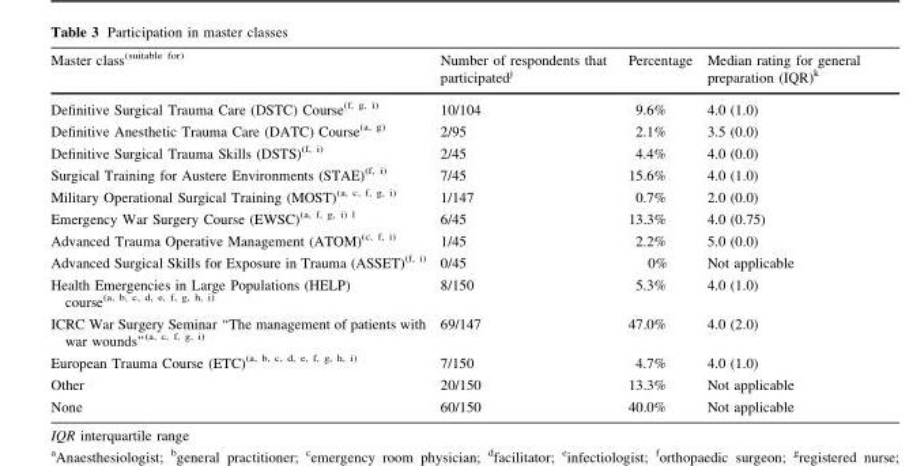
<table><thead><tr><td>Master class<sup>(suitable for)</sup></td><td>Number of respondents that participated<sup>j</sup></td><td>Percentage</td><td>Median rating for general preparation (IQR)<sup>k</sup></td></tr></thead><tbody><tr><td>Definitive Surgical Trauma Care (DSTC) Course<sup>(f, g, i)</sup></td><td>10/104</td><td>9.6%</td><td>4.0 (1.0)</td></tr><tr><td>Definitive Anesthetic Trauma Care (DATC) Course<sup>(a, g)</sup></td><td>2/95</td><td>2.1%</td><td>3.5 (0.0)</td></tr><tr><td>Definitive Surgical Trauma Skills (DSTS)<sup>(f, i)</sup></td><td>2/45</td><td>4.4%</td><td>4.0 (0.0)</td></tr><tr><td>Surgical Training for Austere Environments (STAE)<sup>(f, i)</sup></td><td>7/45</td><td>15.6%</td><td>4.0 (1.0)</td></tr><tr><td>Military Operational Surgical Training (MOST)<sup>(a, c, f, g, i)</sup></td><td>1/147</td><td>0.7%</td><td>2.0 (0.0)</td></tr><tr><td>Emergency War Surgery Course (EWSC)<sup>(a, f, g, i) l</sup></td><td>6/45</td><td>13.3%</td><td>4.0 (0.75)</td></tr><tr><td>Advanced Trauma Operative Management (ATOM)<sup>(c, f, i)</sup></td><td>1/45</td><td>2.2%</td><td>5.0 (0.0)</td></tr><tr><td>Advanced Surgical Skills for Exposure in Trauma (ASSET)<sup>(f, i)</sup></td><td>0/45</td><td>0%</td><td>Not applicable</td></tr><tr><td>Health Emergencies in Large Populations (HELP) course<sup>(a, b, c, d, e, f, g, h, i)</sup></td><td>8/150</td><td>5.3%</td><td>4.0 (1.0)</td></tr><tr><td>ICRC War Surgery Seminar ‘‘The management of patients with war wounds’’(a, c, f, g, i)</td><td>69/147</td><td>47.0%</td><td>4.0 (2.0)</td></tr><tr><td>European Trauma Course (ETC)<sup>(a, b, c, d, e, f, g, h, i)</sup></td><td>7/150</td><td>4.7%</td><td>4.0 (1.0)</td></tr><tr><td>Other</td><td>20/150</td><td>13.3%</td><td>Not applicable</td></tr><tr><td>None</td><td>60/150</td><td>40.0%</td><td>Not applicable</td></tr></tbody></table>